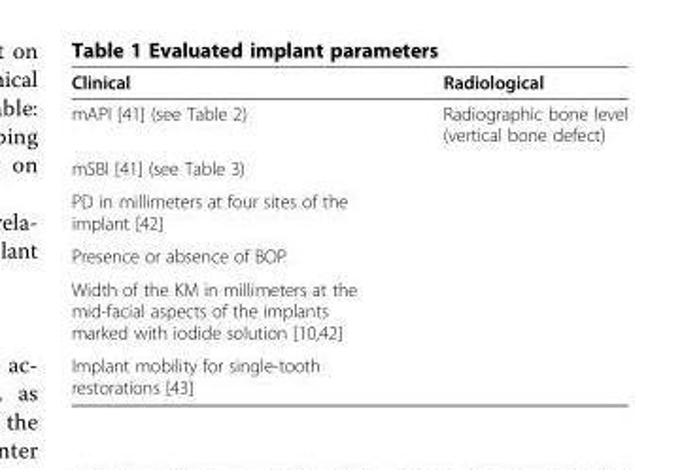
<table><thead><tr><td>Clinical</td><td>Radiological</td></tr></thead><tbody><tr><td>mAPI [41] (see Table 2)</td><td>Radiographic bone level (vertical bone defect)</td></tr><tr><td colspan="2">mSBI [41] (see Table 3)</td></tr><tr><td colspan="2">PD in millimeters at four sites of the implant [42]</td></tr><tr><td colspan="2">Presence or absence of BOP</td></tr><tr><td colspan="2">Width of the KM in millimeters at the mid-facial aspects of the implants marked with iodide solution [10,42]</td></tr><tr><td>Implant mobility for single-tooth restorations [43]</td><td></td></tr></tbody></table>